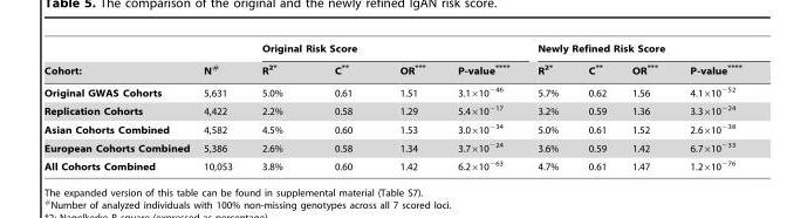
<table><thead><tr><td rowspan="2">Cohort:</td><td rowspan="2">N#</td><td colspan="4">Original Risk Score</td><td colspan="4">Newly Refined Risk Score</td></tr><tr><td>R<sup>2</sup>*</td><td>C**</td><td>OR***</td><td>P-value****</td><td>R<sup>2</sup>*</td><td>C**</td><td>OR***</td><td>P-value****</td></tr></thead><tbody><tr><td>Original GWAS Cohorts</td><td>5,631</td><td>5.0%</td><td>0.61</td><td>1.51</td><td>3.1×10<sup>−46</sup></td><td>5.7%</td><td>0.62</td><td>1.56</td><td>4.1×10<sup>−52</sup></td></tr><tr><td>Replication Cohorts</td><td>4,422</td><td>2.2%</td><td>0.58</td><td>1.29</td><td>5.4×10<sup>−17</sup></td><td>3.2%</td><td>0.59</td><td>1.36</td><td>3.3×10<sup>−24</sup></td></tr><tr><td>Asian Cohorts Combined</td><td>4,582</td><td>4.5%</td><td>0.60</td><td>1.53</td><td>3.0×10<sup>−34</sup></td><td>5.0%</td><td>0.61</td><td>1.52</td><td>2.6×10<sup>−38</sup></td></tr><tr><td>European Cohorts Combined</td><td>5,386</td><td>2.6%</td><td>0.58</td><td>1.34</td><td>3.7×10<sup>−24</sup></td><td>3.6%</td><td>0.59</td><td>1.42</td><td>6.7×10<sup>−33</sup></td></tr><tr><td>All Cohorts Combined</td><td>10,053</td><td>3.8%</td><td>0.60</td><td>1.42</td><td>6.2×10<sup>−63</sup></td><td>4.7%</td><td>0.61</td><td>1.47</td><td>1.2×10<sup>−76</sup></td></tr></tbody></table>